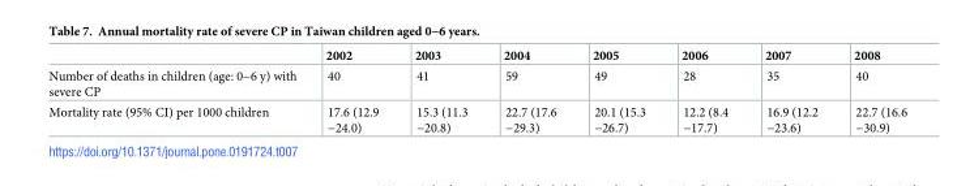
<table><thead><tr><td></td><td>2002</td><td>2003</td><td>2004</td><td>2005</td><td>2006</td><td>2007</td><td>2008</td></tr></thead><tbody><tr><td>Number of deaths in children (age: 0−6 y) with severe CP</td><td>40</td><td>41</td><td>59</td><td>49</td><td>28</td><td>35</td><td>40</td></tr><tr><td>Mortality rate (95% CI) per 1000 children</td><td>17.6 (12.9 −24.0)</td><td>15.3 (11.3 −20.8)</td><td>22.7 (17.6 −29.3)</td><td>20.1 (15.3 −26.7)</td><td>12.2 (8.4 −17.7)</td><td>16.9 (12.2 −23.6)</td><td>22.7 (16.6 −30.9)</td></tr></tbody></table>